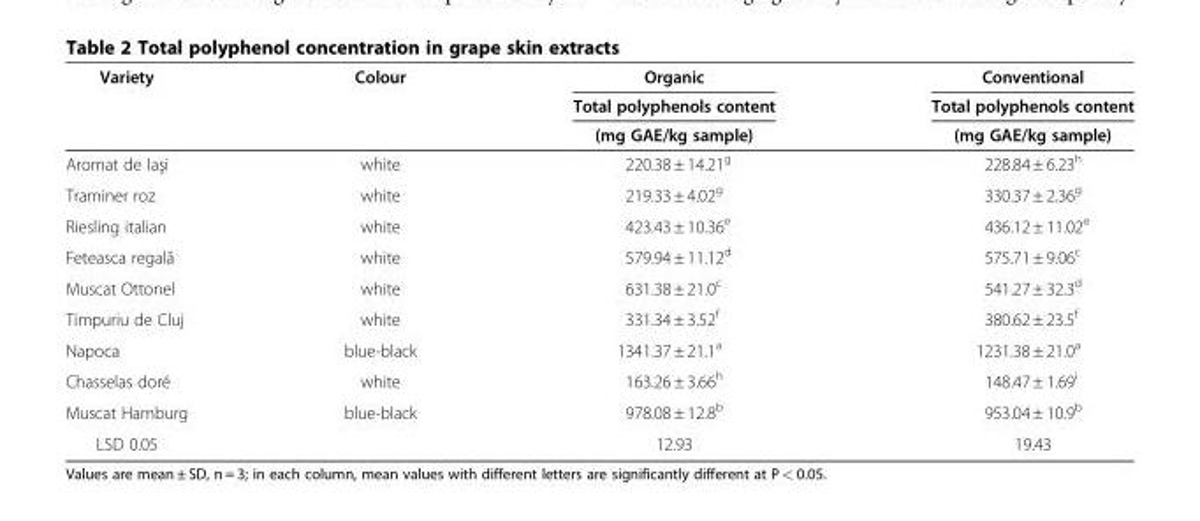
<table><thead><tr><td rowspan="3">Variety</td><td rowspan="3">Colour</td><td rowspan="3">Organic Total polyphenols content (mg GAE/kg sample)</td><td rowspan="3">Conventional Total polyphenols content (mg GAE/kg sample)</td></tr><tr></tr><tr></tr></thead><tbody><tr><td>Aromat de Iaşi</td><td>white</td><td>220.38 ± 14.21<sup>g</sup></td><td>228.84 ± 6.23<sup>h</sup></td></tr><tr><td>Traminer roz</td><td>white</td><td>219.33 ± 4.02<sup>g</sup></td><td>330.37 ± 2.36<sup>g</sup></td></tr><tr><td>Riesling italian</td><td>white</td><td>423.43 ± 10.36<sup>e</sup></td><td>436.12 ± 11.02<sup>e</sup></td></tr><tr><td>Feteasca regală</td><td>white</td><td>579.94 ± 11.12<sup>d</sup></td><td>575.71 ± 9.06<sup>c</sup></td></tr><tr><td>Muscat Ottonel</td><td>white</td><td>631.38 ± 21.0<sup>c</sup></td><td>541.27 ± 32.3<sup>d</sup></td></tr><tr><td>Timpuriu de Cluj</td><td>white</td><td>331.34 ± 3.52<sup>f</sup></td><td>380.62 ± 23.5<sup>f</sup></td></tr><tr><td>Napoca</td><td>blue-black</td><td>1341.37 ± 21.1<sup>a</sup></td><td>1231.38 ± 21.0<sup>a</sup></td></tr><tr><td>Chasselas doré</td><td>white</td><td>163.26 ± 3.66<sup>h</sup></td><td>148.47 ± 1.69<sup>i</sup></td></tr><tr><td>Muscat Hamburg</td><td>blue-black</td><td>978.08 ± 12.8<sup>b</sup></td><td>953.04 ± 10.9<sup>b</sup></td></tr><tr><td>LSD 0.05</td><td></td><td>12.93</td><td>19.43</td></tr></tbody></table>